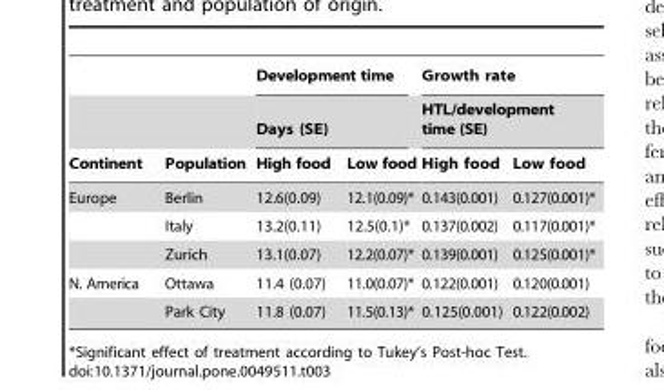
<table><thead><tr><td rowspan="3">Continent</td><td rowspan="3">Population</td><td rowspan="2" colspan="2">Development time Days (SE)</td><td rowspan="2" colspan="2">Growth rate HTL/development time (SE)</td></tr><tr></tr><tr><td>High food</td><td>Low food</td><td>High food</td><td>Low food</td></tr></thead><tbody><tr><td rowspan="3">Europe</td><td>Berlin</td><td>12.6(0.09)</td><td>12.1(0.09)*</td><td>0.143(0.001)</td><td>0.127(0.001)*</td></tr><tr><td>Italy</td><td>13.2(0.11)</td><td>12.5(0.1)*</td><td>0.137(0.002)</td><td>0.117(0.001)*</td></tr><tr><td>Zurich</td><td>13.1(0.07)</td><td>12.2(0.07)*</td><td>0.139(0.001)</td><td>0.125(0.001)*</td></tr><tr><td rowspan="2">N. America</td><td>Ottawa</td><td>11.4 (0.07)</td><td>11.0(0.07)*</td><td>0.122(0.001)</td><td>0.120(0.001)</td></tr><tr><td>Park City</td><td>11.8 (0.07)</td><td>11.5(0.13)*</td><td>0.125(0.001)</td><td>0.122(0.002)</td></tr></tbody></table>